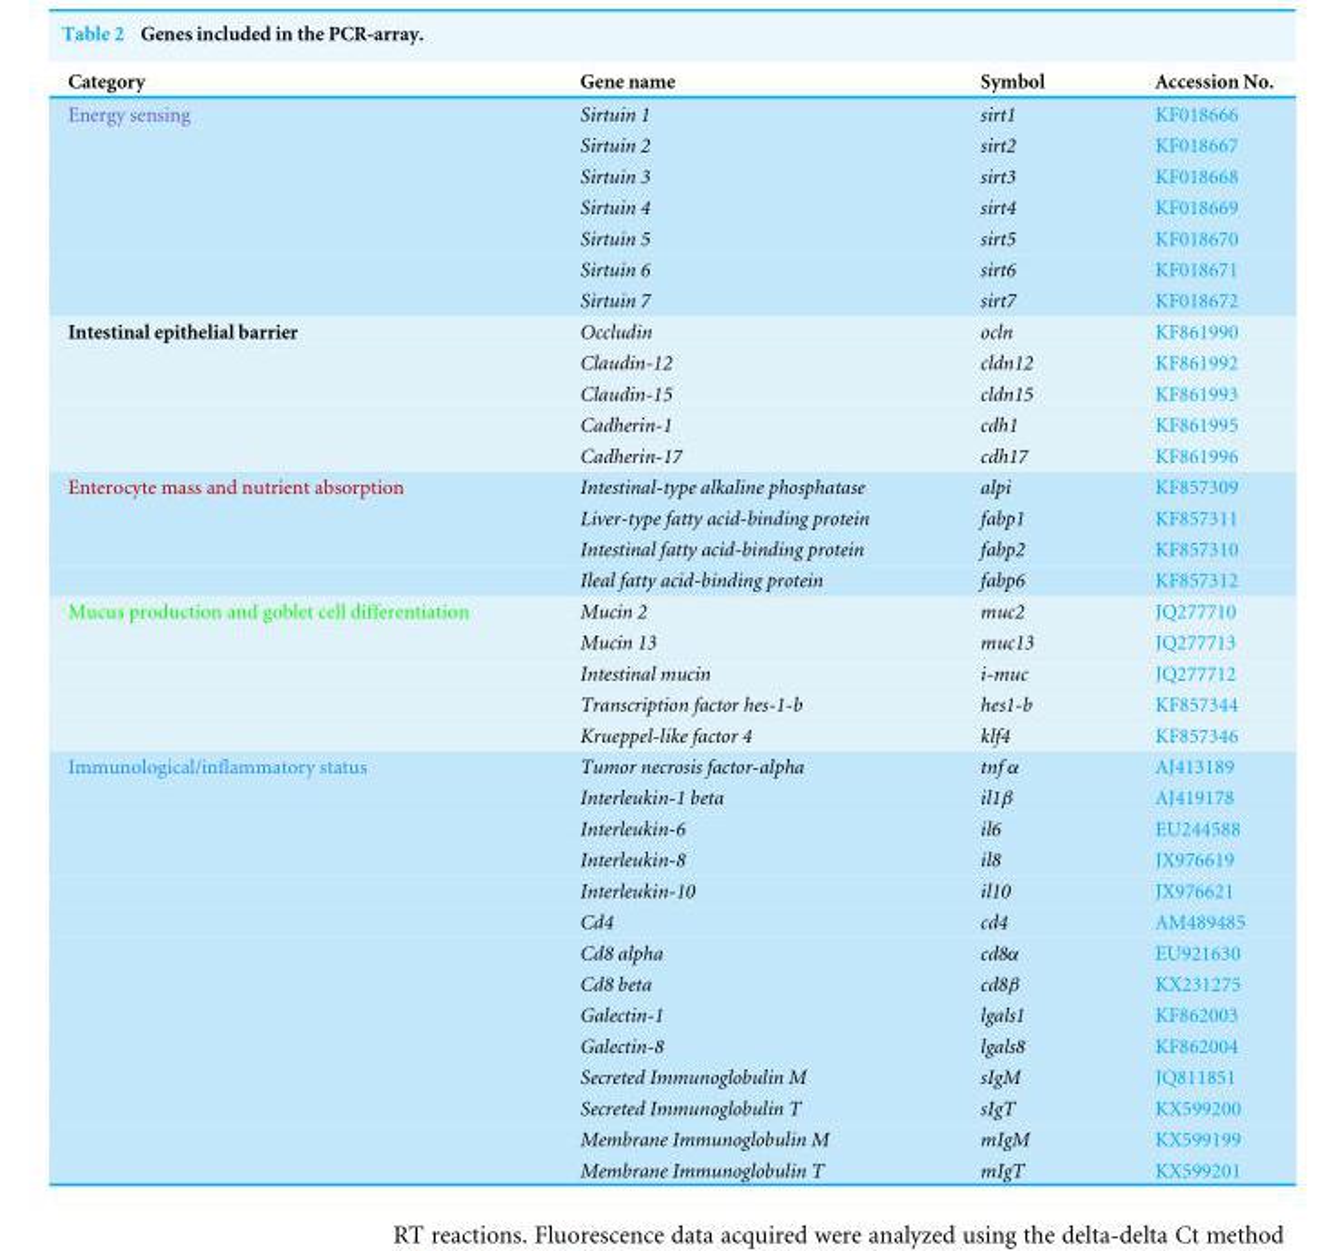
<table><thead><tr><td>Category</td><td>Gene name</td><td>Symbol</td><td>Accession No.</td></tr></thead><tbody><tr><td rowspan="7">Energy sensing</td><td>Sirtuin 1</td><td>sirt1</td><td>KF018666</td></tr><tr><td>Sirtuin 2</td><td>sirt2</td><td>KF018667</td></tr><tr><td>Sirtuin 3</td><td>sirt3</td><td>KF018668</td></tr><tr><td>Sirtuin 4</td><td>sirt4</td><td>KF018669</td></tr><tr><td>Sirtuin 5</td><td>sirt5</td><td>KF018670</td></tr><tr><td>Sirtuin 6</td><td>sirt6</td><td>KF018671</td></tr><tr><td>Sirtuin 7</td><td>sirt7</td><td>KF018672</td></tr><tr><td rowspan="5">Intestinal epithelial barrier</td><td>Occludin</td><td>ocln</td><td>KF861990</td></tr><tr><td>Claudin-12</td><td>cldn12</td><td>KF861992</td></tr><tr><td>Claudin-15</td><td>cldn15</td><td>KF861993</td></tr><tr><td>Cadherin-1</td><td>cdh1</td><td>KF861995</td></tr><tr><td>Cadherin-17</td><td>cdh17</td><td>KF861996</td></tr><tr><td rowspan="4">Enterocyte mass and nutrient absorption</td><td>Intestinal-type alkaline phosphatase</td><td>alpi</td><td>KF857309</td></tr><tr><td>Liver-type fatty acid-binding protein</td><td>fabp1</td><td>KF857311</td></tr><tr><td>Intestinal fatty acid-binding protein</td><td>fabp2</td><td>KF857310</td></tr><tr><td>Ileal fatty acid-binding protein</td><td>fabp6</td><td>KF857312</td></tr><tr><td rowspan="5">Mucus production and goblet cell differentiation</td><td>Mucin 2</td><td>muc2</td><td>JQ277710</td></tr><tr><td>Mucin 13</td><td>muc13</td><td>JQ277713</td></tr><tr><td>Intestinal mucin</td><td>i-muc</td><td>JQ277712</td></tr><tr><td>Transcription factor hes-1-b</td><td>hes1-b</td><td>KF857344</td></tr><tr><td>Krueppel-like factor 4</td><td>klf4</td><td>KF857346</td></tr><tr><td rowspan="14">Immunological/inflammatory status</td><td>Tumor necrosis factor-alpha</td><td>tnf α</td><td>AJ413189</td></tr><tr><td>Interleukin-1 beta</td><td>il1β</td><td>AJ419178</td></tr><tr><td>Interleukin-6</td><td>il6</td><td>EU244588</td></tr><tr><td>Interleukin-8</td><td>il8</td><td>JX976619</td></tr><tr><td>Interleukin-10</td><td>il10</td><td>JX976621</td></tr><tr><td>Cd4</td><td>cd4</td><td>AM489485</td></tr><tr><td>Cd8 alpha</td><td>cd8α</td><td>EU921630</td></tr><tr><td>Cd8 beta</td><td>cd8β</td><td>KX231275</td></tr><tr><td>Galectin-1</td><td>lgals1</td><td>KF862003</td></tr><tr><td>Galectin-8</td><td>lgals8</td><td>KF862004</td></tr><tr><td>Secreted Immunoglobulin M</td><td>sIgM</td><td>JQ811851</td></tr><tr><td>Secreted Immunoglobulin T</td><td>sIgT</td><td>KX599200</td></tr><tr><td>Membrane Immunoglobulin M</td><td>mIgM</td><td>KX599199</td></tr><tr><td>Membrane Immunoglobulin T</td><td>mIgT</td><td>KX599201</td></tr></tbody></table>